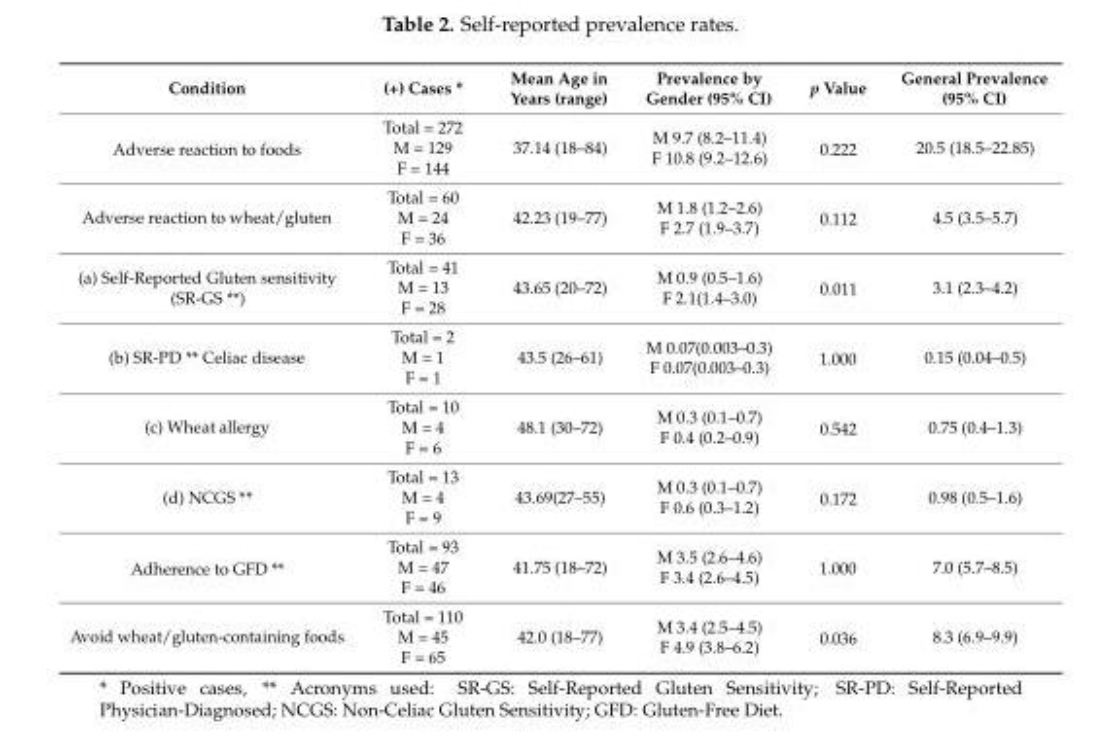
<table><thead><tr><td>Condition</td><td>(+) Cases *</td><td>Mean Age in Years (range)</td><td>Prevalence by Gender (95% CI)</td><td>p Value</td><td>General Prevalence (95% CI)</td></tr></thead><tbody><tr><td rowspan="3">Adverse reaction to foods</td><td>Total = 272</td><td rowspan="3">37.14 (18–84)</td><td rowspan="3">M 9.7 (8.2–11.4) F 10.8 (9.2–12.6)</td><td rowspan="3">0.222</td><td rowspan="3">20.5 (18.5–22.85)</td></tr><tr><td>M = 129</td></tr><tr><td>F = 144</td></tr><tr><td rowspan="3">Adverse reaction to wheat/gluten</td><td>Total = 60</td><td rowspan="3">42.23 (19–77)</td><td rowspan="3">M 1.8 (1.2–2.6) F 2.7 (1.9–3.7)</td><td rowspan="3">0.112</td><td rowspan="3">4.5 (3.5–5.7)</td></tr><tr><td>M = 24</td></tr><tr><td>F = 36</td></tr><tr><td rowspan="3">(a) Self-Reported Gluten sensitivity (SR-GS **)</td><td>Total = 41</td><td rowspan="3">43.65 (20–72)</td><td rowspan="3">M 0.9 (0.5–1.6) F 2.1(1.4–3.0)</td><td rowspan="3">0.011</td><td rowspan="3">3.1 (2.3–4.2)</td></tr><tr><td>M = 13</td></tr><tr><td>F = 28</td></tr><tr><td rowspan="3">(b) SR-PD ** Celiac disease</td><td>Total = 2</td><td rowspan="3">43.5 (26–61)</td><td rowspan="3">M 0.07(0.003–0.3) F 0.07(0.003–0.3)</td><td rowspan="3">1.000</td><td rowspan="3">0.15 (0.04–0.5)</td></tr><tr><td>M = 1</td></tr><tr><td>F = 1</td></tr><tr><td rowspan="3">(c) Wheat allergy</td><td>Total = 10</td><td rowspan="3">48.1 (30–72)</td><td rowspan="3">M 0.3 (0.1–0.7) F 0.4 (0.2–0.9)</td><td rowspan="3">0.542</td><td rowspan="3">0.75 (0.4–1.3)</td></tr><tr><td>M = 4</td></tr><tr><td>F = 6</td></tr><tr><td rowspan="3">(d) NCGS **</td><td>Total = 13</td><td rowspan="3">43.69(27–55)</td><td rowspan="3">M 0.3 (0.1–0.7) F 0.6 (0.3–1.2)</td><td rowspan="3">0.172</td><td rowspan="3">0.98 (0.5–1.6)</td></tr><tr><td>M = 4</td></tr><tr><td>F = 9</td></tr><tr><td rowspan="3">Adherence to GFD **</td><td>Total = 93</td><td rowspan="3">41.75 (18–72)</td><td rowspan="3">M 3.5 (2.6–4.6) F 3.4 (2.6–4.5)</td><td rowspan="3">1.000</td><td rowspan="3">7.0 (5.7–8.5)</td></tr><tr><td>M = 47</td></tr><tr><td>F = 46</td></tr><tr><td rowspan="3">Avoid wheat/gluten-containing foods</td><td>Total = 110</td><td rowspan="3">42.0 (18–77)</td><td rowspan="3">M 3.4 (2.5–4.5) F 4.9 (3.8–6.2)</td><td rowspan="3">0.036</td><td rowspan="3">8.3 (6.9–9.9)</td></tr><tr><td>M = 45</td></tr><tr><td>F = 65</td></tr></tbody></table>